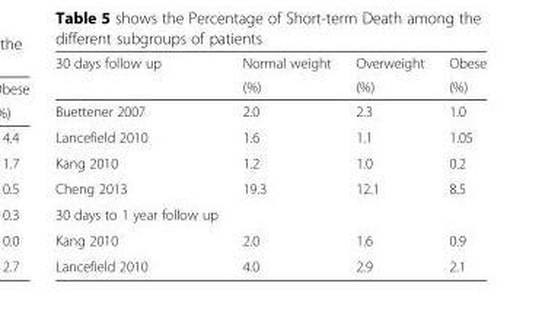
<table><thead><tr><td rowspan="2">30 days follow up</td><td rowspan="2">Normal weight (%)</td><td rowspan="2">Overweight (%)</td><td rowspan="2">Obese (%)</td></tr><tr></tr></thead><tbody><tr><td>Buettener 2007</td><td>2.0</td><td>2.3</td><td>1.0</td></tr><tr><td>Lancefield 2010</td><td>1.6</td><td>1.1</td><td>1.05</td></tr><tr><td>Kang 2010</td><td>1.2</td><td>1.0</td><td>0.2</td></tr><tr><td>Cheng 2013</td><td>19.3</td><td>12.1</td><td>8.5</td></tr><tr><td colspan="4">30 days to 1 year follow up</td></tr><tr><td>Kang 2010</td><td>2.0</td><td>1.6</td><td>0.9</td></tr><tr><td>Lancefield 2010</td><td>4.0</td><td>2.9</td><td>2.1</td></tr></tbody></table>